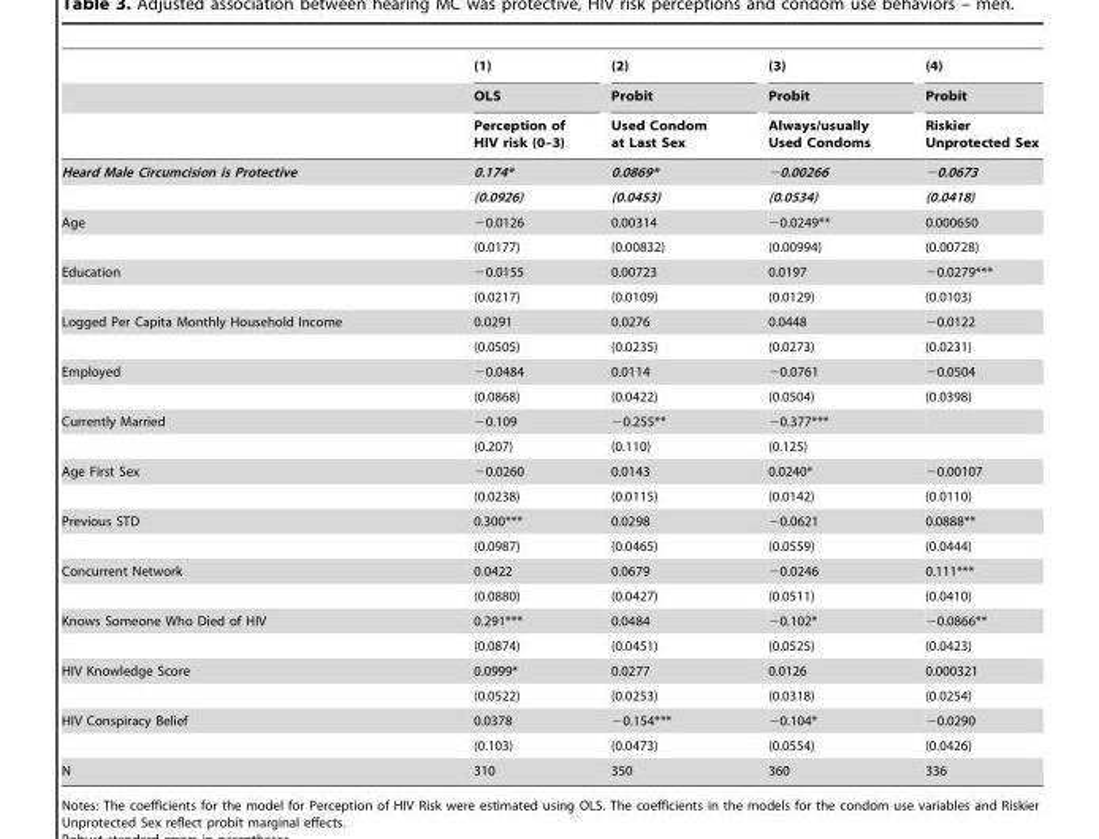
<table><thead><tr><td rowspan="3"></td><td rowspan="3">(1) OLS Perception of HIV risk (0–3)</td><td rowspan="3">(2) Probit Used Condom at Last Sex</td><td rowspan="3">(3) Probit Always/usually Used Condoms</td><td rowspan="3">(4) Probit Riskier Unprotected Sex</td></tr><tr></tr><tr></tr></thead><tbody><tr><td rowspan="2">Heard Male Circumcision is Protective</td><td>0.174*</td><td>0.0869*</td><td>−0.00266</td><td>−0.0673</td></tr><tr><td>(0.0926)</td><td>(0.0453)</td><td>(0.0534)</td><td>(0.0418)</td></tr><tr><td rowspan="2">Age</td><td>−0.0126</td><td>0.00314</td><td>−0.0249**</td><td>0.000650</td></tr><tr><td>(0.0177)</td><td>(0.00832)</td><td>(0.00994)</td><td>(0.00728)</td></tr><tr><td rowspan="2">Education</td><td>−0.0155</td><td>0.00723</td><td>0.0197</td><td>−0.0279***</td></tr><tr><td>(0.0217)</td><td>(0.0109)</td><td>(0.0129)</td><td>(0.0103)</td></tr><tr><td rowspan="2">Logged Per Capita Monthly Household Income</td><td>0.0291</td><td>0.0276</td><td>0.0448</td><td>−0.0122</td></tr><tr><td>(0.0505)</td><td>(0.0235)</td><td>(0.0273)</td><td>(0.0231)</td></tr><tr><td rowspan="2">Employed</td><td>−0.0484</td><td>0.0114</td><td>−0.0761</td><td>−0.0504</td></tr><tr><td>(0.0868)</td><td>(0.0422)</td><td>(0.0504)</td><td>(0.0398)</td></tr><tr><td rowspan="2">Currently Married</td><td>−0.109</td><td>−0.255**</td><td>−0.377***</td><td></td></tr><tr><td>(0.207)</td><td>(0.110)</td><td>(0.125)</td><td></td></tr><tr><td rowspan="2">Age First Sex</td><td>−0.0260</td><td>0.0143</td><td>0.0240*</td><td>−0.00107</td></tr><tr><td>(0.0238)</td><td>(0.0115)</td><td>(0.0142)</td><td>(0.0110)</td></tr><tr><td rowspan="2">Previous STD</td><td>0.300***</td><td>0.0298</td><td>−0.0621</td><td>0.0888**</td></tr><tr><td>(0.0987)</td><td>(0.0465)</td><td>(0.0559)</td><td>(0.0444)</td></tr><tr><td rowspan="2">Concurrent Network</td><td>0.0422</td><td>0.0679</td><td>−0.0246</td><td>0.111***</td></tr><tr><td>(0.0880)</td><td>(0.0427)</td><td>(0.0511)</td><td>(0.0410)</td></tr><tr><td rowspan="2">Knows Someone Who Died of HIV</td><td>0.291***</td><td>0.0484</td><td>−0.102*</td><td>−0.0866**</td></tr><tr><td>(0.0874)</td><td>(0.0451)</td><td>(0.0525)</td><td>(0.0423)</td></tr><tr><td rowspan="2">HIV Knowledge Score</td><td>0.0999*</td><td>0.0277</td><td>0.0126</td><td>0.000321</td></tr><tr><td>(0.0522)</td><td>(0.0253)</td><td>(0.0318)</td><td>(0.0254)</td></tr><tr><td rowspan="2">HIV Conspiracy Belief</td><td>0.0378</td><td>−0.154***</td><td>−0.104*</td><td>−0.0290</td></tr><tr><td>(0.103)</td><td>(0.0473)</td><td>(0.0554)</td><td>(0.0426)</td></tr><tr><td>N</td><td>310</td><td>350</td><td>360</td><td>336</td></tr></tbody></table>